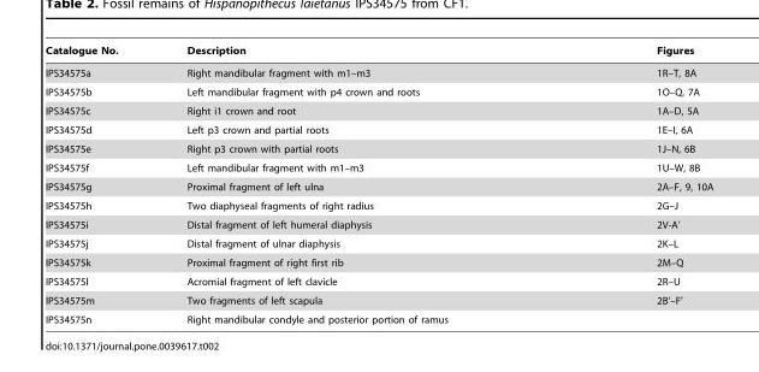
<table><thead><tr><td>Catalogue No.</td><td>Description</td><td>Figures</td></tr></thead><tbody><tr><td>IPS34575a</td><td>Right mandibular fragment with m1–m3</td><td>1R–T, 8A</td></tr><tr><td>IPS34575b</td><td>Left mandibular fragment with p4 crown and roots</td><td>1O–Q, 7A</td></tr><tr><td>IPS34575c</td><td>Right i1 crown and root</td><td>1A–D, 5A</td></tr><tr><td>IPS34575d</td><td>Left p3 crown and partial roots</td><td>1E–I, 6A</td></tr><tr><td>IPS34575e</td><td>Right p3 crown with partial roots</td><td>1J–N, 6B</td></tr><tr><td>IPS34575f</td><td>Left mandibular fragment with m1–m3</td><td>1U–W, 8B</td></tr><tr><td>IPS34575g</td><td>Proximal fragment of left ulna</td><td>2A–F, 9, 10A</td></tr><tr><td>IPS34575h</td><td>Two diaphyseal fragments of right radius</td><td>2G–J</td></tr><tr><td>IPS34575i</td><td>Distal fragment of left humeral diaphysis</td><td>2V-A’</td></tr><tr><td>IPS34575j</td><td>Distal fragment of ulnar diaphysis</td><td>2K–L</td></tr><tr><td>IPS34575k</td><td>Proximal fragment of right first rib</td><td>2M–Q</td></tr><tr><td>IPS34575l</td><td>Acromial fragment of left clavicle</td><td>2R–U</td></tr><tr><td>IPS34575m</td><td>Two fragments of left scapula</td><td>2B’–F’</td></tr><tr><td>IPS34575n</td><td>Right mandibular condyle and posterior portion of ramus</td><td></td></tr></tbody></table>